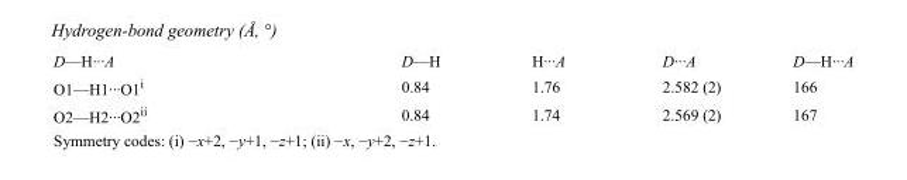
<table><tbody><tr><td>D—H···A</td><td>D—H</td><td>H···A</td><td>D···A</td><td>D—H···A</td></tr><tr><td>O1—H1···O1<sup>i</sup></td><td>0.84</td><td>1.76</td><td>2.582 (2)</td><td>166</td></tr><tr><td>O2—H2···O2<sup>ii</sup></td><td>0.84</td><td>1.74</td><td>2.569 (2)</td><td>167</td></tr></tbody></table>